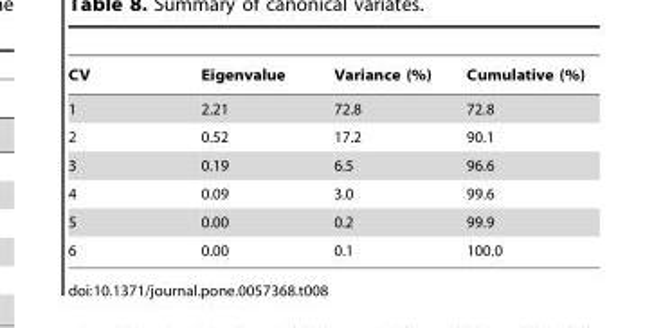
<table><thead><tr><td>CV</td><td>Eigenvalue</td><td>Variance (%)</td><td>Cumulative (%)</td></tr></thead><tbody><tr><td>1</td><td>2.21</td><td>72.8</td><td>72.8</td></tr><tr><td>2</td><td>0.52</td><td>17.2</td><td>90.1</td></tr><tr><td>3</td><td>0.19</td><td>6.5</td><td>96.6</td></tr><tr><td>4</td><td>0.09</td><td>3.0</td><td>99.6</td></tr><tr><td>5</td><td>0.00</td><td>0.2</td><td>99.9</td></tr><tr><td>6</td><td>0.00</td><td>0.1</td><td>100.0</td></tr></tbody></table>